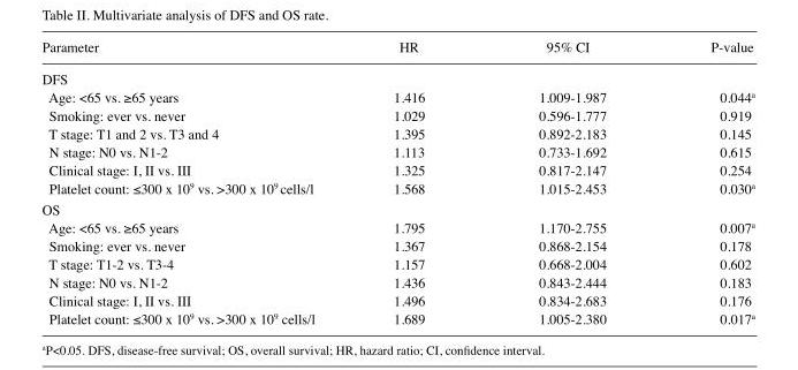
<table><thead><tr><td>Parameter</td><td>HR</td><td>95% CI</td><td>P‑value</td></tr></thead><tbody><tr><td colspan="4">DFS</td></tr><tr><td>Age: &lt;65 vs. ≥65 years</td><td>1.416</td><td>1.009‑1.987</td><td>0.044<sup>a</sup></td></tr><tr><td>Smoking: ever vs. never</td><td>1.029</td><td>0.596‑1.777</td><td>0.919</td></tr><tr><td>T stage: T1 and 2 vs. T3 and 4</td><td>1.395</td><td>0.892‑2.183</td><td>0.145</td></tr><tr><td>N stage: N0 vs. N1‑2</td><td>1.113</td><td>0.733‑1.692</td><td>0.615</td></tr><tr><td>Clinical stage: I, II vs. III</td><td>1.325</td><td>0.817‑2.147</td><td>0.254</td></tr><tr><td>Platelet count: ≤300 x 109 vs. &gt;300 x 109 cells/l</td><td>1.568</td><td>1.015‑2.453</td><td>0.030<sup>a</sup></td></tr><tr><td colspan="4">OS</td></tr><tr><td>Age: &lt;65 vs. ≥65 years</td><td>1.795</td><td>1.170‑2.755</td><td>0.007<sup>a</sup></td></tr><tr><td>Smoking: ever vs. never</td><td>1.367</td><td>0.868‑2.154</td><td>0.178</td></tr><tr><td>T stage: T1‑2 vs. T3‑4</td><td>1.157</td><td>0.668‑2.004</td><td>0.602</td></tr><tr><td>N stage: N0 vs. N1‑2</td><td>1.436</td><td>0.843‑2.444</td><td>0.183</td></tr><tr><td>Clinical stage: Ⅰ, Ⅱ vs. Ⅲ</td><td>1.496</td><td>0.834‑2.683</td><td>0.176</td></tr><tr><td>Platelet count: ≤300 x 109 vs. &gt;300 x 109 cells/l</td><td>1.689</td><td>1.005‑2.380</td><td>0.017<sup>a</sup></td></tr></tbody></table>